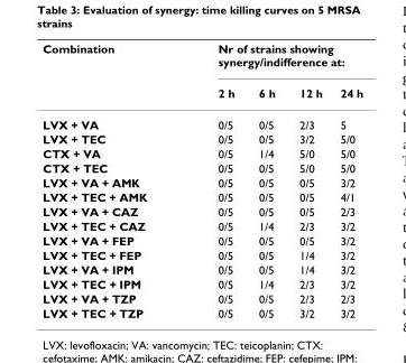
<table><thead><tr><td rowspan="2">Combination</td><td colspan="4">Nr of strains showing synergy/indifference at:</td></tr><tr><td>2 h</td><td>6 h</td><td>12 h</td><td>24 h</td></tr></thead><tbody><tr><td>LVX + VA</td><td>0/5</td><td>0/5</td><td>2/3</td><td>5</td></tr><tr><td>LVX + TEC</td><td>0/5</td><td>0/5</td><td>3/2</td><td>5/0</td></tr><tr><td>CTX + VA</td><td>0/5</td><td>1/4</td><td>5/0</td><td>5/0</td></tr><tr><td>CTX + TEC</td><td>0/5</td><td>0/5</td><td>5/0</td><td>5/0</td></tr><tr><td>LVX + VA + AMK</td><td>0/5</td><td>0/5</td><td>0/5</td><td>3/2</td></tr><tr><td>LVX + TEC + AMK</td><td>0/5</td><td>0/5</td><td>0/5</td><td>4/1</td></tr><tr><td>LVX + VA + CAZ</td><td>0/5</td><td>0/5</td><td>0/5</td><td>2/3</td></tr><tr><td>LVX + TEC + CAZ</td><td>0/5</td><td>1/4</td><td>2/3</td><td>3/2</td></tr><tr><td>LVX + VA + FEP</td><td>0/5</td><td>0/5</td><td>0/5</td><td>3/2</td></tr><tr><td>LVX + TEC + FEP</td><td>0/5</td><td>0/5</td><td>1/4</td><td>3/2</td></tr><tr><td>LVX + VA + IPM</td><td>0/5</td><td>0/5</td><td>1/4</td><td>3/2</td></tr><tr><td>LVX + TEC + IPM</td><td>0/5</td><td>1/4</td><td>2/3</td><td>3/2</td></tr><tr><td>LVX + VA + TZP</td><td>0/5</td><td>0/5</td><td>2/3</td><td>2/3</td></tr><tr><td>LVX + TEC + TZP</td><td>0/5</td><td>0/5</td><td>3/2</td><td>3/2</td></tr></tbody></table>